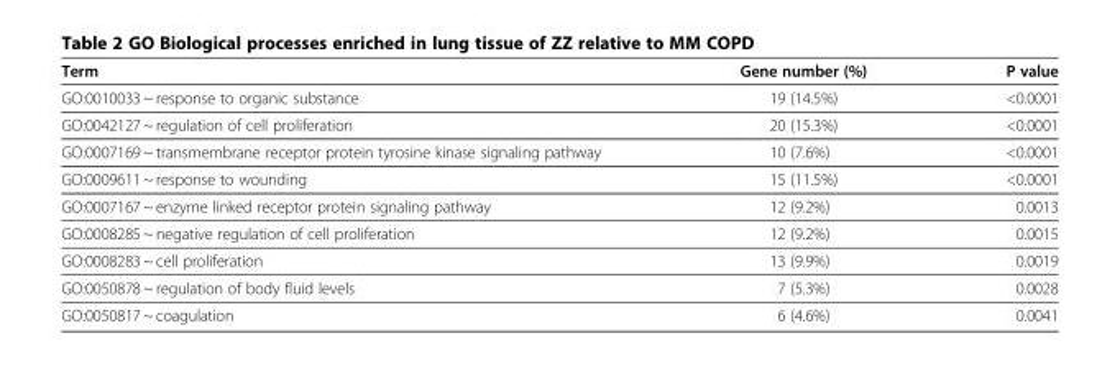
<table><thead><tr><td>Term</td><td>Gene number (%)</td><td>P value</td></tr></thead><tbody><tr><td>GO:0010033 ~ response to organic substance</td><td>19 (14.5%)</td><td>&lt;0.0001</td></tr><tr><td>GO:0042127 ~ regulation of cell proliferation</td><td>20 (15.3%)</td><td>&lt;0.0001</td></tr><tr><td>GO:0007169 ~ transmembrane receptor protein tyrosine kinase signaling pathway</td><td>10 (7.6%)</td><td>&lt;0.0001</td></tr><tr><td>GO:0009611 ~ response to wounding</td><td>15 (11.5%)</td><td>&lt;0.0001</td></tr><tr><td>GO:0007167 ~ enzyme linked receptor protein signaling pathway</td><td>12 (9.2%)</td><td>0.0013</td></tr><tr><td>GO:0008285 ~ negative regulation of cell proliferation</td><td>12 (9.2%)</td><td>0.0015</td></tr><tr><td>GO:0008283 ~ cell proliferation</td><td>13 (9.9%)</td><td>0.0019</td></tr><tr><td>GO:0050878 ~ regulation of body fluid levels</td><td>7 (5.3%)</td><td>0.0028</td></tr><tr><td>GO:0050817 ~ coagulation</td><td>6 (4.6%)</td><td>0.0041</td></tr></tbody></table>